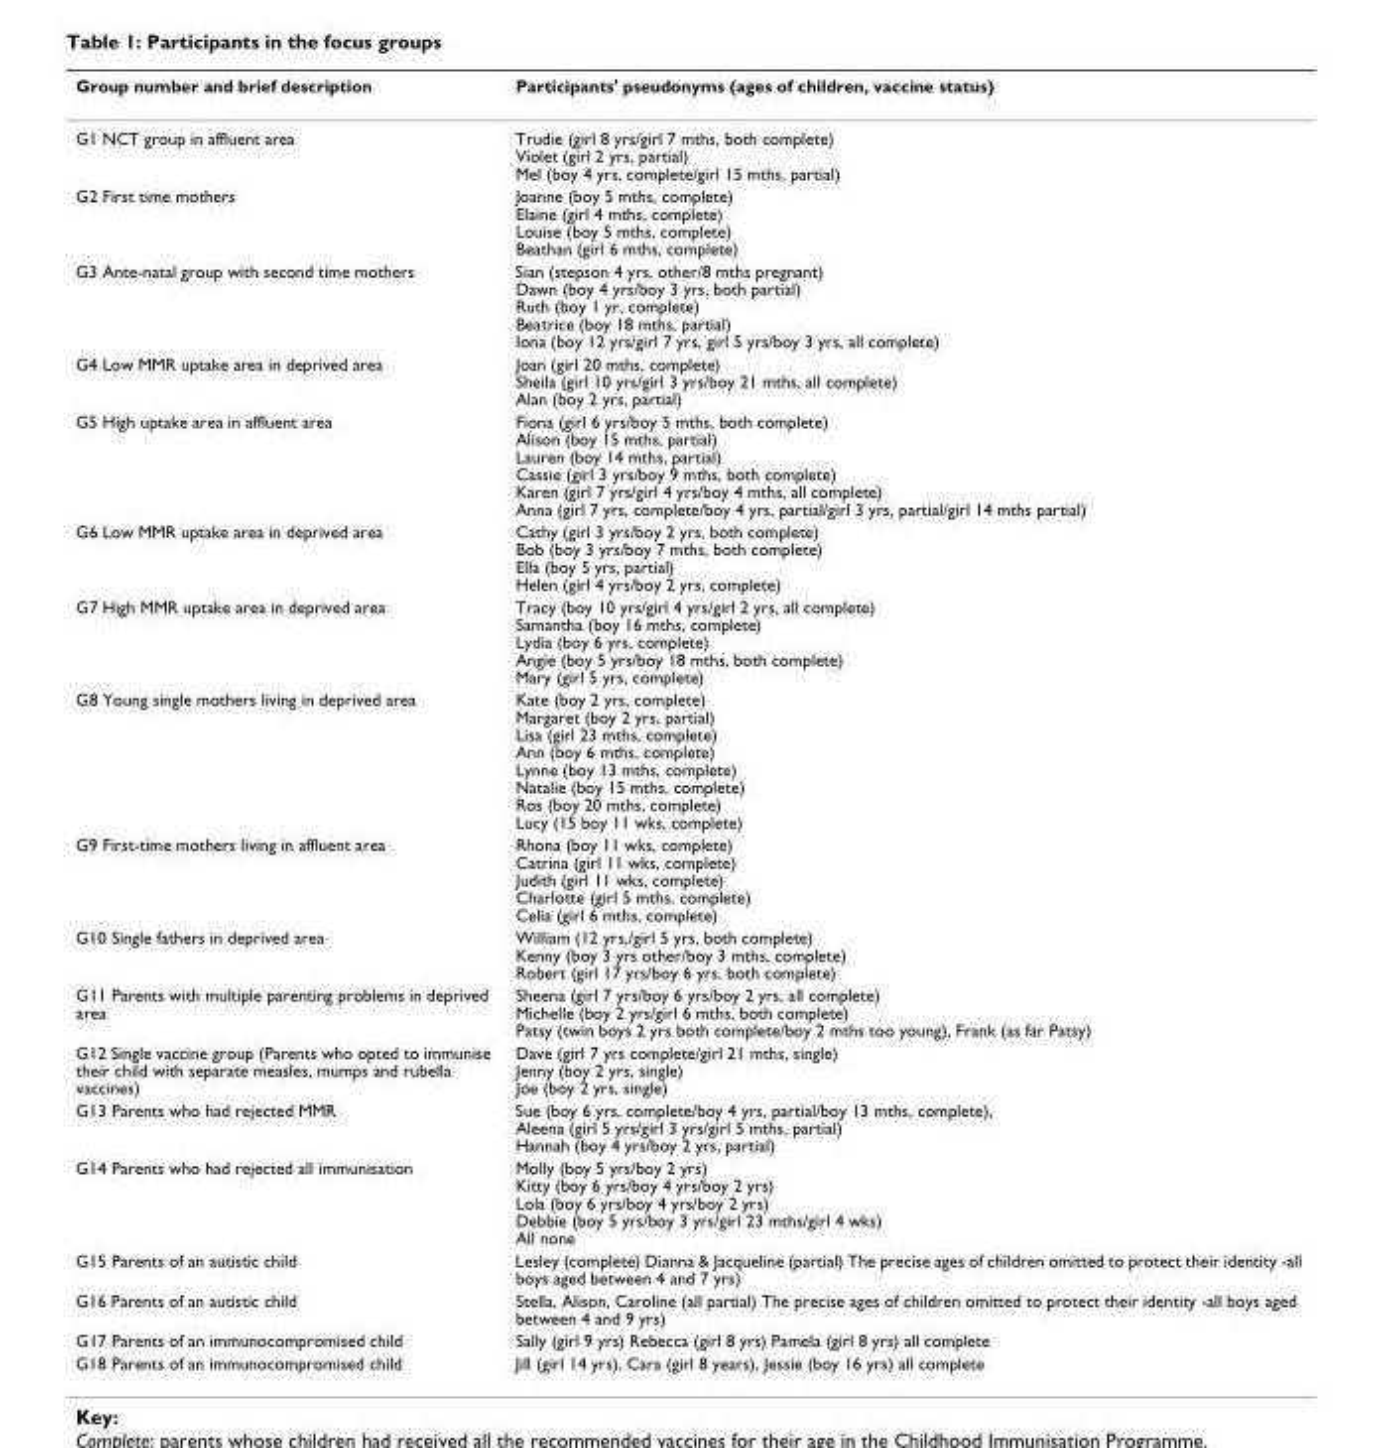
<table><thead><tr><td>Group number and brief description</td><td>Participants&#x27; pseudonyms (ages of children, vaccine status)</td></tr></thead><tbody><tr><td>G1 NCT group in affluent area</td><td>Trudie (girl 8 yrs/girl 7 mths, both complete) Violet (girl 2 yrs, partial) Mel (boy 4 yrs, complete/girl 15 mths, partial)</td></tr><tr><td>G2 First time mothers</td><td>Joanne (boy 5 mths, complete) Elaine (girl 4 mths, complete) Louise (boy 5 mths, complete) Beathan (girl 6 mths, complete)</td></tr><tr><td>G3 Ante-natal group with second time mothers</td><td>Sian (stepson 4 yrs, other/8 mths pregnant) Dawn (boy 4 yrs/boy 3 yrs, both partial) Ruth (boy 1 yr, complete) Beatrice (boy 18 mths, partial) Iona (boy 12 yrs/girl 7 yrs, girl 5 yrs/boy 3 yrs, all complete)</td></tr><tr><td>G4 Low MMR uptake area in deprived area</td><td>Joan (girl 20 mths, complete) Sheila (girl 10 yrs/girl 3 yrs/boy 21 mths, all complete) Alan (boy 2 yrs, partial)</td></tr><tr><td>G5 High uptake area in affluent area</td><td>Fiona (girl 6 yrs/boy 5 mths, both complete) Alison (boy 15 mths, partial) Lauren (boy 14 mths, partial) Cassie (girl 3 yrs/boy 9 mths, both complete) Karen (girl 7 yrs/girl 4 yrs/boy 4 mths, all complete) Anna (girl 7 yrs, complete/boy 4 yrs, partial/girl 3 yrs, partial/girl 14 mths partial)</td></tr><tr><td>G6 Low MMR uptake area in deprived area</td><td>Cathy (girl 3 yrs/boy 2 yrs, both complete) Bob (boy 3 yrs/boy 7 mths, both complete) Ella (boy 5 yrs, partial) Helen (girl 4 yrs/boy 2 yrs, complete)</td></tr><tr><td>G7 High MMR uptake area in deprived area</td><td>Tracy (boy 10 yrs/girl 4 yrs/girl 2 yrs, all complete) Samantha (boy 16 mths, complete) Lydia (boy 6 yrs, complete) Angie (boy 5 yrs/boy 18 mths, both complete) Mary (girl 5 yrs, complete)</td></tr><tr><td>G8 Young single mothers living in deprived area</td><td>Kate (boy 2 yrs, complete) Margaret (boy 2 yrs, partial) Lisa (girl 23 mths, complete) Ann (boy 6 mths, complete) Lynne (boy 13 mths, complete) Natalie (boy 15 mths, complete) Ros (boy 20 mths, complete) Lucy (15 boy 11 wks, complete)</td></tr><tr><td>G9 First-time mothers living in affluent area</td><td>Rhona (boy 11 wks, complete) Catrina (girl 11 wks, complete) Judith (girl 11 wks, complete) Charlotte (girl 5 mths, complete) Celia (girl 6 mths, complete)</td></tr><tr><td>G10 Single fathers in deprived area</td><td>William (12 yrs,/girl 5 yrs, both complete) Kenny (boy 3 yrs other/boy 3 mths, complete) Robert (girl 17 yrs/boy 6 yrs, both complete)</td></tr><tr><td>G11 Parents with multiple parenting problems in deprived area</td><td>Sheena (girl 7 yrs/boy 6 yrs/boy 2 yrs, all complete) Michelle (boy 2 yrs/girl 6 mths, both complete) Patsy (twin boys 2 yrs both complete/boy 2 mths too young), Frank (as far Patsy)</td></tr><tr><td>G12 Single vaccine group (Parents who opted to immunise their child with separate measles, mumps and rubella vaccines)</td><td>Dave (girl 7 yrs complete/girl 21 mths, single) Jenny (boy 2 yrs, single) Joe (boy 2 yrs, single)</td></tr><tr><td>G13 Parents who had rejected MMR</td><td>Sue (boy 6 yrs, complete/boy 4 yrs, partial/boy 13 mths, complete), Aleena (girl 5 yrs/girl 3 yrs/girl 5 mths, partial) Hannah (boy 4 yrs/boy 2 yrs, partial)</td></tr><tr><td>G14 Parents who had rejected all immunisation</td><td>Molly (boy 5 yrs/boy 2 yrs) Kitty (boy 6 yrs/boy 4 yrs/boy 2 yrs) Lola (boy 6 yrs/boy 4 yrs/boy 2 yrs) Debbie (boy 5 yrs/boy 3 yrs/girl 23 mths/girl 4 wks) All none</td></tr><tr><td>G15 Parents of an autistic child</td><td>Lesley (complete) Dianna &amp; Jacqueline (partial) The precise ages of children omitted to protect their identity -all boys aged between 4 and 7 yrs)</td></tr><tr><td>G16 Parents of an autistic child</td><td>Stella, Alison, Caroline (all partial) The precise ages of children omitted to protect their identity -all boys aged between 4 and 9 yrs)</td></tr><tr><td>G17 Parents of an immunocompromised child</td><td>Sally (girl 9 yrs) Rebecca (girl 8 yrs) Pamela (girl 8 yrs) all complete</td></tr><tr><td>G18 Parents of an immunocompromised child</td><td>Jill (girl 14 yrs), Cara (girl 8 years), Jessie (boy 16 yrs) all complete</td></tr></tbody></table>